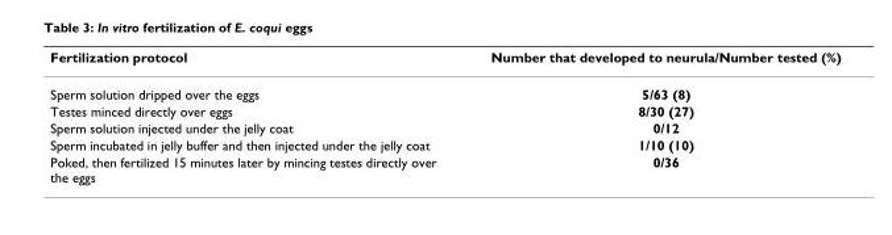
<table><thead><tr><td>Fertilization protocol</td><td>Number that developed to neurula/Number tested (%)</td></tr></thead><tbody><tr><td>Sperm solution dripped over the eggs</td><td>5/63 (8)</td></tr><tr><td>Testes minced directly over eggs</td><td>8/30 (27)</td></tr><tr><td>Sperm solution injected under the jelly coat</td><td>0/12</td></tr><tr><td>Sperm incubated in jelly buffer and then injected under the jelly coat</td><td>1/10 (10)</td></tr><tr><td>Poked, then fertilized 15 minutes later by mincing testes directly over the eggs</td><td>0/36</td></tr></tbody></table>